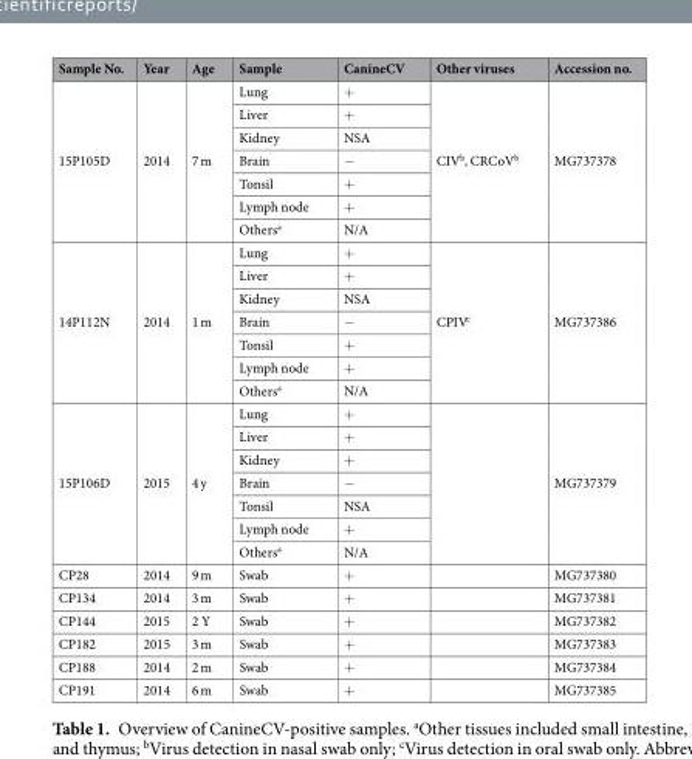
<table><thead><tr><td>Sample No.</td><td>Year</td><td>Age</td><td>Sample</td><td>CanineCV</td><td>Other viruses</td><td>Accession no.</td></tr></thead><tbody><tr><td rowspan="7">15P105D</td><td rowspan="7">2014</td><td rowspan="7">7 m</td><td>Lung</td><td>+</td><td rowspan="7">CIV<sup>b</sup>, CRCoV<sup>b</sup></td><td rowspan="7">MG737378</td></tr><tr><td>Liver</td><td>+</td></tr><tr><td>Kidney</td><td>NSA</td></tr><tr><td>Brain</td><td>−</td></tr><tr><td>Tonsil</td><td>+</td></tr><tr><td>Lymph node</td><td>+</td></tr><tr><td>Others<sup>a</sup></td><td>N/A</td></tr><tr><td rowspan="7">14P112N</td><td rowspan="7">2014</td><td rowspan="7">1 m</td><td>Lung</td><td>+</td><td rowspan="7">CPIV<sup>c</sup></td><td rowspan="7">MG737386</td></tr><tr><td>Liver</td><td>+</td></tr><tr><td>Kidney</td><td>NSA</td></tr><tr><td>Brain</td><td>−</td></tr><tr><td>Tonsil</td><td>+</td></tr><tr><td>Lymph node</td><td>+</td></tr><tr><td>Others<sup>a</sup></td><td>N/A</td></tr><tr><td rowspan="7">15P106D</td><td rowspan="7">2015</td><td rowspan="7">4 y</td><td>Lung</td><td>+</td><td rowspan="7"></td><td rowspan="7">MG737379</td></tr><tr><td>Liver</td><td>+</td></tr><tr><td>Kidney</td><td>+</td></tr><tr><td>Brain</td><td>−</td></tr><tr><td>Tonsil</td><td>NSA</td></tr><tr><td>Lymph node</td><td>+</td></tr><tr><td>Others<sup>a</sup></td><td>N/A</td></tr><tr><td>CP28</td><td>2014</td><td>9 m</td><td>Swab</td><td>+</td><td></td><td>MG737380</td></tr><tr><td>CP134</td><td>2014</td><td>3 m</td><td>Swab</td><td>+</td><td></td><td>MG737381</td></tr><tr><td>CP144</td><td>2015</td><td>2 Y</td><td>Swab</td><td>+</td><td></td><td>MG737382</td></tr><tr><td>CP182</td><td>2015</td><td>3 m</td><td>Swab</td><td>+</td><td></td><td>MG737383</td></tr><tr><td>CP188</td><td>2014</td><td>2 m</td><td>Swab</td><td>+</td><td></td><td>MG737384</td></tr><tr><td>CP191</td><td>2014</td><td>6 m</td><td>Swab</td><td>+</td><td></td><td>MG737385</td></tr></tbody></table>